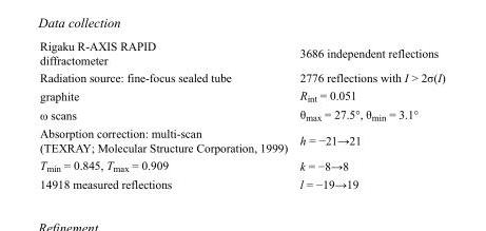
<table><tbody><tr><td>Rigaku R-AXIS RAPID diffractometer</td><td>3686 independent reflections</td></tr><tr><td>Radiation source: fine-focus sealed tube</td><td>2776 reflections with I &gt; 2σ(I)</td></tr><tr><td>graphite</td><td>R<sub>int</sub> = 0.051</td></tr><tr><td>ω scans</td><td>θ<sub>max</sub> = 27.5°, θ<sub>min</sub> = 3.1°</td></tr><tr><td>Absorption correction: multi-scan (TEXRAY; Molecular Structure Corporation, 1999)</td><td>h = −21→21</td></tr><tr><td>T<sub>min</sub> = 0.845, T<sub>max</sub> = 0.909</td><td>k = −8→8</td></tr><tr><td>14918 measured reflections</td><td>l = −19→19</td></tr></tbody></table>